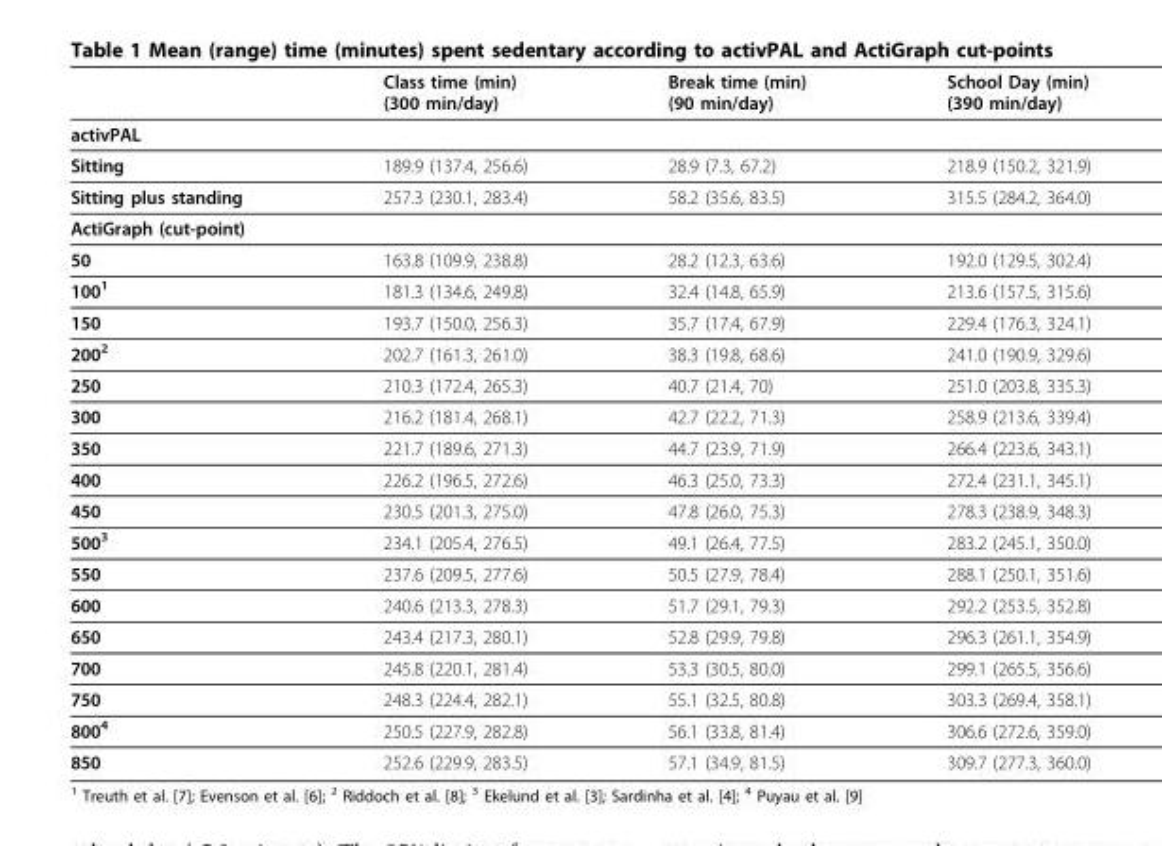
<table><thead><tr><td></td><td>Class time (min) (300 min/day)</td><td>Break time (min) (90 min/day)</td><td>School Day (min) (390 min/day)</td></tr></thead><tbody><tr><td colspan="4">activPAL</td></tr><tr><td>Sitting</td><td>189.9 (137.4, 256.6)</td><td>28.9 (7.3, 67.2)</td><td>218.9 (150.2, 321.9)</td></tr><tr><td>Sitting plus standing</td><td>257.3 (230.1, 283.4)</td><td>58.2 (35.6, 83.5)</td><td>315.5 (284.2, 364.0)</td></tr><tr><td colspan="4">ActiGraph (cut-point)</td></tr><tr><td>50</td><td>163.8 (109.9, 238.8)</td><td>28.2 (12.3, 63.6)</td><td>192.0 (129.5, 302.4)</td></tr><tr><td>100<sup>1</sup></td><td>181.3 (134.6, 249.8)</td><td>32.4 (14.8, 65.9)</td><td>213.6 (157.5, 315.6)</td></tr><tr><td>150</td><td>193.7 (150.0, 256.3)</td><td>35.7 (17.4, 67.9)</td><td>229.4 (176.3, 324.1)</td></tr><tr><td>200<sup>2</sup></td><td>202.7 (161.3, 261.0)</td><td>38.3 (19.8, 68.6)</td><td>241.0 (190.9, 329.6)</td></tr><tr><td>250</td><td>210.3 (172.4, 265.3)</td><td>40.7 (21.4, 70)</td><td>251.0 (203.8, 335.3)</td></tr><tr><td>300</td><td>216.2 (181.4, 268.1)</td><td>42.7 (22.2, 71.3)</td><td>258.9 (213.6, 339.4)</td></tr><tr><td>350</td><td>221.7 (189.6, 271.3)</td><td>44.7 (23.9, 71.9)</td><td>266.4 (223.6, 343.1)</td></tr><tr><td>400</td><td>226.2 (196.5, 272.6)</td><td>46.3 (25.0, 73.3)</td><td>272.4 (231.1, 345.1)</td></tr><tr><td>450</td><td>230.5 (201.3, 275.0)</td><td>47.8 (26.0, 75.3)</td><td>278.3 (238.9, 348.3)</td></tr><tr><td>500<sup>3</sup></td><td>234.1 (205.4, 276.5)</td><td>49.1 (26.4, 77.5)</td><td>283.2 (245.1, 350.0)</td></tr><tr><td>550</td><td>237.6 (209.5, 277.6)</td><td>50.5 (27.9, 78.4)</td><td>288.1 (250.1, 351.6)</td></tr><tr><td>600</td><td>240.6 (213.3, 278.3)</td><td>51.7 (29.1, 79.3)</td><td>292.2 (253.5, 352.8)</td></tr><tr><td>650</td><td>243.4 (217.3, 280.1)</td><td>52.8 (29.9, 79.8)</td><td>296.3 (261.1, 354.9)</td></tr><tr><td>700</td><td>245.8 (220.1, 281.4)</td><td>53.3 (30.5, 80.0)</td><td>299.1 (265.5, 356.6)</td></tr><tr><td>750</td><td>248.3 (224.4, 282.1)</td><td>55.1 (32.5, 80.8)</td><td>303.3 (269.4, 358.1)</td></tr><tr><td>800<sup>4</sup></td><td>250.5 (227.9, 282.8)</td><td>56.1 (33.8, 81.4)</td><td>306.6 (272.6, 359.0)</td></tr><tr><td>850</td><td>252.6 (229.9, 283.5)</td><td>57.1 (34.9, 81.5)</td><td>309.7 (277.3, 360.0)</td></tr></tbody></table>